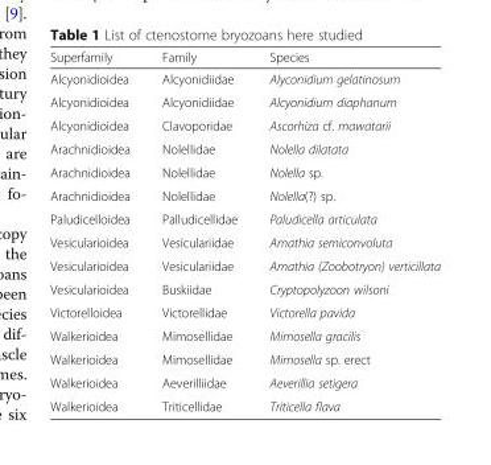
<table><thead><tr><td>Superfamily</td><td>Family</td><td>Species</td></tr></thead><tbody><tr><td>Alcyonidioidea</td><td>Alcyonidiidae</td><td>Alyconidium gelatinosum</td></tr><tr><td>Alcyonidioidea</td><td>Alcyonidiidae</td><td>Alcyonidium diaphanum</td></tr><tr><td>Alcyonidioidea</td><td>Clavoporidae</td><td>Ascorhiza cf. mawatarii</td></tr><tr><td>Arachnidioidea</td><td>Nolellidae</td><td>Nolella dilatata</td></tr><tr><td>Arachnidioidea</td><td>Nolellidae</td><td>Nolella sp.</td></tr><tr><td>Arachnidioidea</td><td>Nolellidae</td><td>Nolella(?) sp.</td></tr><tr><td>Paludicelloidea</td><td>Palludicellidae</td><td>Paludicella articulata</td></tr><tr><td>Vesicularioidea</td><td>Vesiculariidae</td><td>Amathia semiconvoluta</td></tr><tr><td>Vesicularioidea</td><td>Vesiculariidae</td><td>Amathia (Zoobotryon) verticillata</td></tr><tr><td>Vesicularioidea</td><td>Buskiidae</td><td>Cryptopolyzoon wilsoni</td></tr><tr><td>Victorelloidea</td><td>Victorellidae</td><td>Victorella pavida</td></tr><tr><td>Walkerioidea</td><td>Mimosellidae</td><td>Mimosella gracilis</td></tr><tr><td>Walkerioidea</td><td>Mimosellidae</td><td>Mimosella sp. erect</td></tr><tr><td>Walkerioidea</td><td>Aeverilliidae</td><td>Aeverillia setigera</td></tr><tr><td>Walkerioidea</td><td>Triticellidae</td><td>Triticella flava</td></tr></tbody></table>